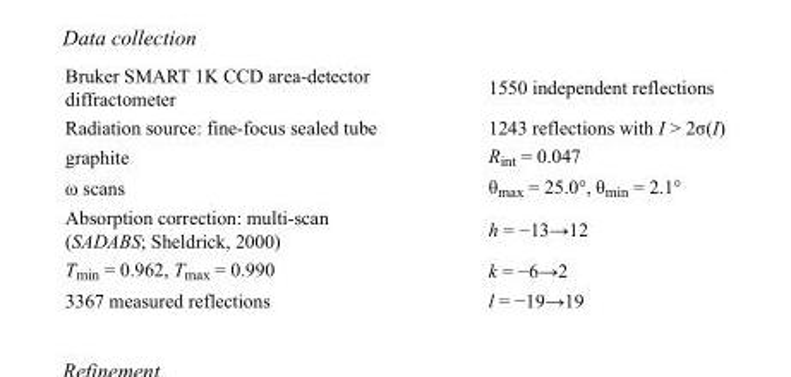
<table><tbody><tr><td>Bruker SMART 1K CCD area-detector diffractometer</td><td>1550 independent reflections</td></tr><tr><td>Radiation source: fine-focus sealed tube</td><td>1243 reflections with I &gt; 2σ(I)</td></tr><tr><td>graphite</td><td>R<sub>int</sub> = 0.047</td></tr><tr><td>ω scans</td><td>θ<sub>max</sub> = 25.0°, θ<sub>min</sub> = 2.1°</td></tr><tr><td>Absorption correction: multi-scan (SADABS; Sheldrick, 2000)</td><td>h = −13→12</td></tr><tr><td>T<sub>min</sub> = 0.962, T<sub>max</sub> = 0.990</td><td>k = −6→2</td></tr><tr><td>3367 measured reflections</td><td>l = −19→19</td></tr></tbody></table>